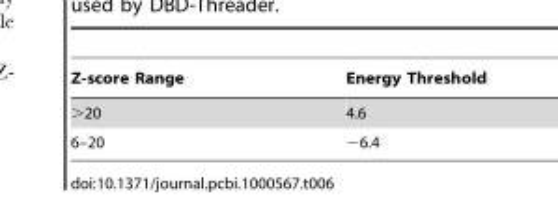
<table><thead><tr><td>Z-score Range</td><td>Energy Threshold</td></tr></thead><tbody><tr><td>&gt;20</td><td>4.6</td></tr><tr><td>6–20</td><td>−6.4</td></tr></tbody></table>